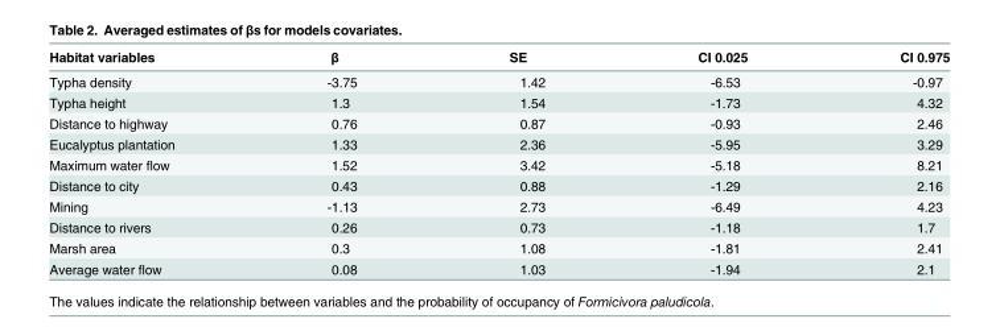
<table><thead><tr><td>Habitat variables</td><td>β</td><td>SE</td><td>CI 0.025</td><td>CI 0.975</td></tr></thead><tbody><tr><td>Typha density</td><td>-3.75</td><td>1.42</td><td>-6.53</td><td>-0.97</td></tr><tr><td>Typha height</td><td>1.3</td><td>1.54</td><td>-1.73</td><td>4.32</td></tr><tr><td>Distance to highway</td><td>0.76</td><td>0.87</td><td>-0.93</td><td>2.46</td></tr><tr><td>Eucalyptus plantation</td><td>1.33</td><td>2.36</td><td>-5.95</td><td>3.29</td></tr><tr><td>Maximum water flow</td><td>1.52</td><td>3.42</td><td>-5.18</td><td>8.21</td></tr><tr><td>Distance to city</td><td>0.43</td><td>0.88</td><td>-1.29</td><td>2.16</td></tr><tr><td>Mining</td><td>-1.13</td><td>2.73</td><td>-6.49</td><td>4.23</td></tr><tr><td>Distance to rivers</td><td>0.26</td><td>0.73</td><td>-1.18</td><td>1.7</td></tr><tr><td>Marsh area</td><td>0.3</td><td>1.08</td><td>-1.81</td><td>2.41</td></tr><tr><td>Average water flow</td><td>0.08</td><td>1.03</td><td>-1.94</td><td>2.1</td></tr></tbody></table>